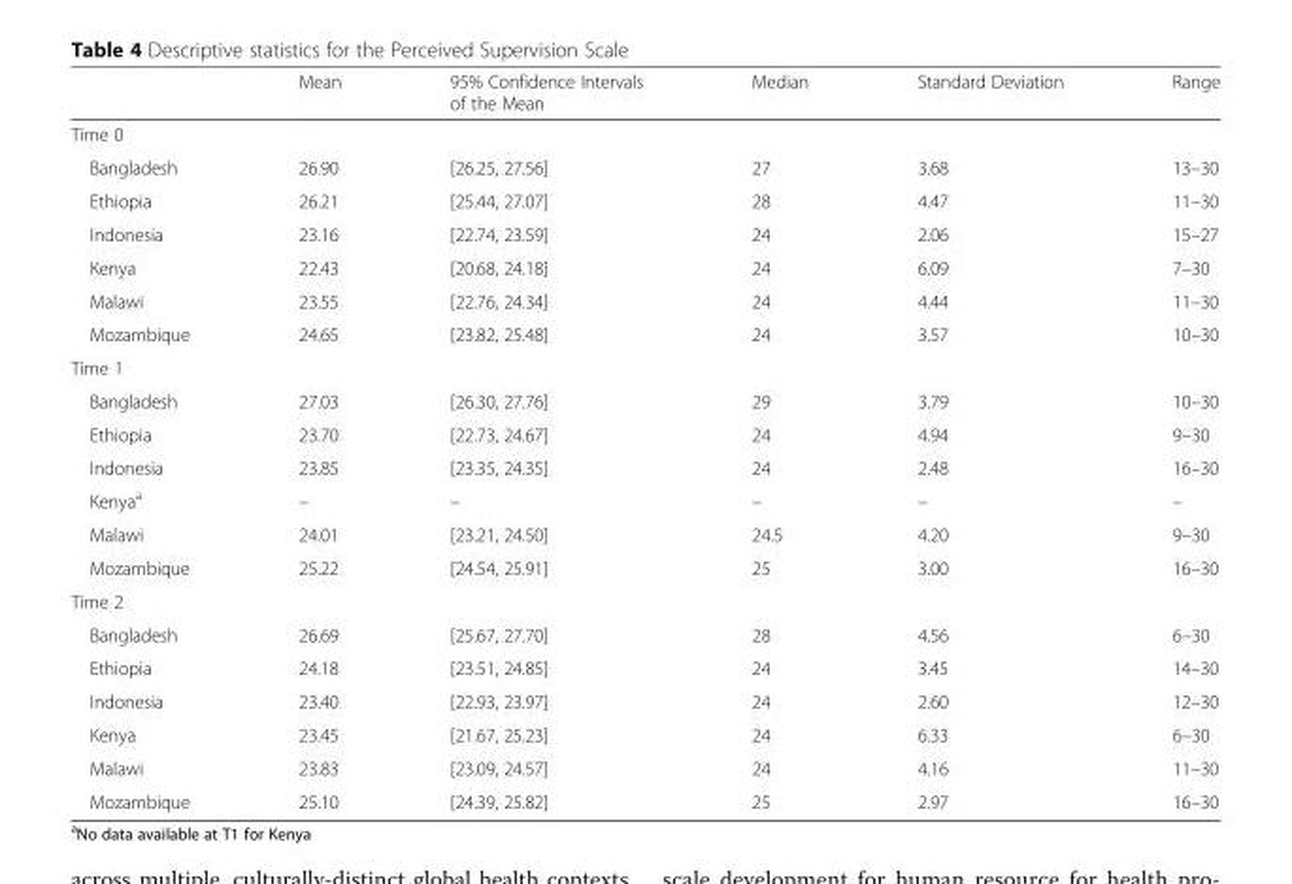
<table><thead><tr><td></td><td>Mean</td><td>95% Confidence Intervals of the Mean</td><td>Median</td><td>Standard Deviation</td><td>Range</td></tr></thead><tbody><tr><td colspan="6">Time 0</td></tr><tr><td>Bangladesh</td><td>26.90</td><td>[26.25, 27.56]</td><td>27</td><td>3.68</td><td>13–30</td></tr><tr><td>Ethiopia</td><td>26.21</td><td>[25.44, 27.07]</td><td>28</td><td>4.47</td><td>11–30</td></tr><tr><td>Indonesia</td><td>23.16</td><td>[22.74, 23.59]</td><td>24</td><td>2.06</td><td>15–27</td></tr><tr><td>Kenya</td><td>22.43</td><td>[20.68, 24.18]</td><td>24</td><td>6.09</td><td>7–30</td></tr><tr><td>Malawi</td><td>23.55</td><td>[22.76, 24.34]</td><td>24</td><td>4.44</td><td>11–30</td></tr><tr><td>Mozambique</td><td>24.65</td><td>[23.82, 25.48]</td><td>24</td><td>3.57</td><td>10–30</td></tr><tr><td colspan="6">Time 1</td></tr><tr><td>Bangladesh</td><td>27.03</td><td>[26.30, 27.76]</td><td>29</td><td>3.79</td><td>10–30</td></tr><tr><td>Ethiopia</td><td>23.70</td><td>[22.73, 24.67]</td><td>24</td><td>4.94</td><td>9–30</td></tr><tr><td>Indonesia</td><td>23.85</td><td>[23.35, 24.35]</td><td>24</td><td>2.48</td><td>16–30</td></tr><tr><td>Kenya<sup>a</sup></td><td>–</td><td>–</td><td>–</td><td>–</td><td>–</td></tr><tr><td>Malawi</td><td>24.01</td><td>[23.21, 24.50]</td><td>24.5</td><td>4.20</td><td>9–30</td></tr><tr><td>Mozambique</td><td>25.22</td><td>[24.54, 25.91]</td><td>25</td><td>3.00</td><td>16–30</td></tr><tr><td colspan="6">Time 2</td></tr><tr><td>Bangladesh</td><td>26.69</td><td>[25.67, 27.70]</td><td>28</td><td>4.56</td><td>6–30</td></tr><tr><td>Ethiopia</td><td>24.18</td><td>[23.51, 24.85]</td><td>24</td><td>3.45</td><td>14–30</td></tr><tr><td>Indonesia</td><td>23.40</td><td>[22.93, 23.97]</td><td>24</td><td>2.60</td><td>12–30</td></tr><tr><td>Kenya</td><td>23.45</td><td>[21.67, 25.23]</td><td>24</td><td>6.33</td><td>6–30</td></tr><tr><td>Malawi</td><td>23.83</td><td>[23.09, 24.57]</td><td>24</td><td>4.16</td><td>11–30</td></tr><tr><td>Mozambique</td><td>25.10</td><td>[24.39, 25.82]</td><td>25</td><td>2.97</td><td>16–30</td></tr></tbody></table>